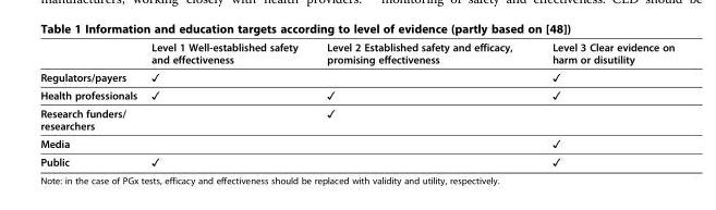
<table><thead><tr><td></td><td>Level 1 Well-established safety and effectiveness</td><td>Level 2 Established safety and efficacy, promising effectiveness</td><td>Level 3 Clear evidence on harm or disutility</td></tr></thead><tbody><tr><td>Regulators/payers</td><td>✓</td><td></td><td>✓</td></tr><tr><td>Health professionals</td><td>✓</td><td>✓</td><td>✓</td></tr><tr><td>Research funders/ researchers</td><td></td><td>✓</td><td></td></tr><tr><td>Media</td><td></td><td></td><td>✓</td></tr><tr><td>Public</td><td>✓</td><td></td><td>✓</td></tr></tbody></table>